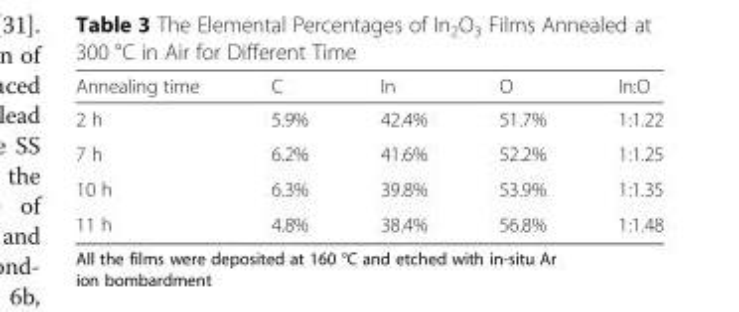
<table><thead><tr><td>Annealing time</td><td>C</td><td>In</td><td>O</td><td>In:O</td></tr></thead><tbody><tr><td>2 h</td><td>5.9%</td><td>42.4%</td><td>51.7%</td><td>1:1.22</td></tr><tr><td>7 h</td><td>6.2%</td><td>41.6%</td><td>52.2%</td><td>1:1.25</td></tr><tr><td>10 h</td><td>6.3%</td><td>39.8%</td><td>53.9%</td><td>1:1.35</td></tr><tr><td>11 h</td><td>4.8%</td><td>38.4%</td><td>56.8%</td><td>1:1.48</td></tr></tbody></table>